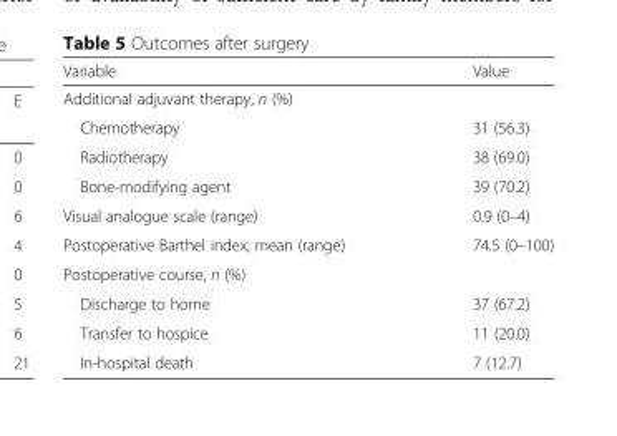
<table><thead><tr><td>Variable</td><td>Value</td></tr></thead><tbody><tr><td colspan="2">Additional adjuvant therapy, n (%)</td></tr><tr><td>Chemotherapy</td><td>31 (56.3)</td></tr><tr><td>Radiotherapy</td><td>38 (69.0)</td></tr><tr><td>Bone-modifying agent</td><td>39 (70.2)</td></tr><tr><td>Visual analogue scale (range)</td><td>0.9 (0–4)</td></tr><tr><td>Postoperative Barthel index, mean (range)</td><td>74.5 (0–100)</td></tr><tr><td colspan="2">Postoperative course, n (%)</td></tr><tr><td>Discharge to home</td><td>37 (67.2)</td></tr><tr><td>Transfer to hospice</td><td>11 (20.0)</td></tr><tr><td>In-hospital death</td><td>7 (12.7)</td></tr></tbody></table>